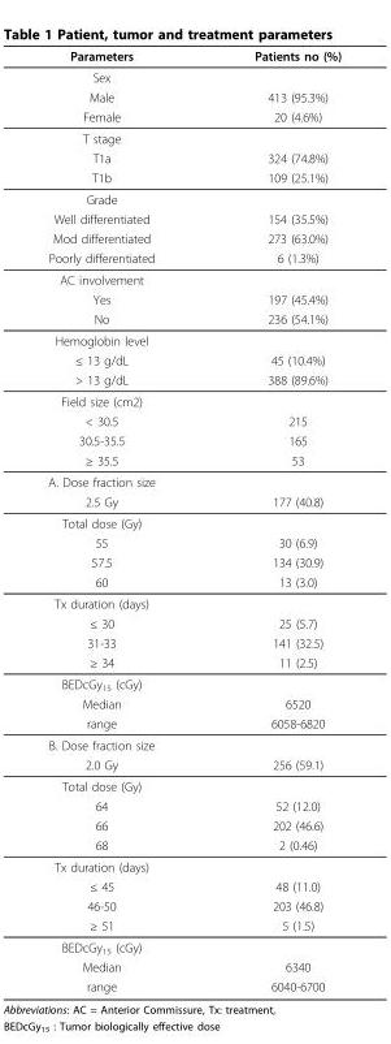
<table><thead><tr><td>Parameters</td><td>Patients no (%)</td></tr></thead><tbody><tr><td colspan="2">Sex</td></tr><tr><td>Male</td><td>413 (95.3%)</td></tr><tr><td>Female</td><td>20 (4.6%)</td></tr><tr><td colspan="2">T stage</td></tr><tr><td>T1a</td><td>324 (74.8%)</td></tr><tr><td>T1b</td><td>109 (25.1%)</td></tr><tr><td colspan="2">Grade</td></tr><tr><td>Well differentiated</td><td>154 (35.5%)</td></tr><tr><td>Mod differentiated</td><td>273 (63.0%)</td></tr><tr><td>Poorly differentiated</td><td>6 (1.3%)</td></tr><tr><td colspan="2">AC involvement</td></tr><tr><td>Yes</td><td>197 (45.4%)</td></tr><tr><td>No</td><td>236 (54.1%)</td></tr><tr><td colspan="2">Hemoglobin level</td></tr><tr><td>≤ 13 g/dL</td><td>45 (10.4%)</td></tr><tr><td>&gt; 13 g/dL</td><td>388 (89.6%)</td></tr><tr><td colspan="2">Field size (cm2)</td></tr><tr><td>&lt; 30.5</td><td>215</td></tr><tr><td>30.5-35.5</td><td>165</td></tr><tr><td>≥ 35.5</td><td>53</td></tr><tr><td colspan="2">A. Dose fraction size</td></tr><tr><td>2.5 Gy</td><td>177 (40.8)</td></tr><tr><td colspan="2">Total dose (Gy)</td></tr><tr><td>55</td><td>30 (6.9)</td></tr><tr><td>57.5</td><td>134 (30.9)</td></tr><tr><td>60</td><td>13 (3.0)</td></tr><tr><td colspan="2">Tx duration (days)</td></tr><tr><td>≤ 30</td><td>25 (5.7)</td></tr><tr><td>31-33</td><td>141 (32.5)</td></tr><tr><td>≥ 34</td><td>11 (2.5)</td></tr><tr><td colspan="2">BEDcGy<sub>15</sub> (cGy)</td></tr><tr><td>Median</td><td>6520</td></tr><tr><td>range</td><td>6058-6820</td></tr><tr><td colspan="2">B. Dose fraction size</td></tr><tr><td>2.0 Gy</td><td>256 (59.1)</td></tr><tr><td colspan="2">Total dose (Gy)</td></tr><tr><td>64</td><td>52 (12.0)</td></tr><tr><td>66</td><td>202 (46.6)</td></tr><tr><td>68</td><td>2 (0.46)</td></tr><tr><td colspan="2">Tx duration (days)</td></tr><tr><td>≤ 45</td><td>48 (11.0)</td></tr><tr><td>46-50</td><td>203 (46.8)</td></tr><tr><td>≥ 51</td><td>5 (1.5)</td></tr><tr><td colspan="2">BEDcGy<sub>15</sub> (cGy)</td></tr><tr><td>Median</td><td>6340</td></tr><tr><td>range</td><td>6040-6700</td></tr></tbody></table>